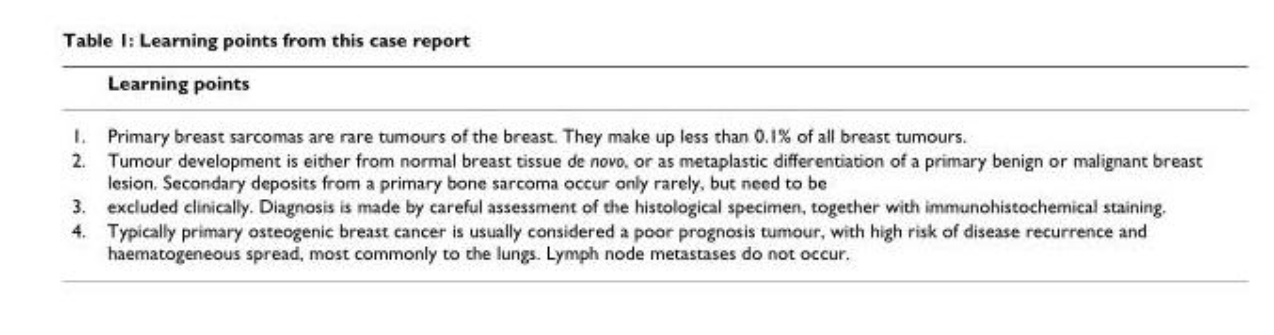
<table><thead><tr><td></td><td>Learning points</td></tr></thead><tbody><tr><td>1.</td><td>Primary breast sarcomas are rare tumours of the breast. They make up less than 0.1% of all breast tumours.</td></tr><tr><td>2.</td><td>Tumour development is either from normal breast tissue de novo, or as metaplastic differentiation of a primary benign or malignant breast lesion. Secondary deposits from a primary bone sarcoma occur only rarely, but need to be</td></tr><tr><td>3.</td><td>excluded clinically. Diagnosis is made by careful assessment of the histological specimen, together with immunohistochemical staining.</td></tr><tr><td>4.</td><td>Typically primary osteogenic breast cancer is usually considered a poor prognosis tumour, with high risk of disease recurrence and haematogeneous spread, most commonly to the lungs. Lymph node metastases do not occur.</td></tr></tbody></table>